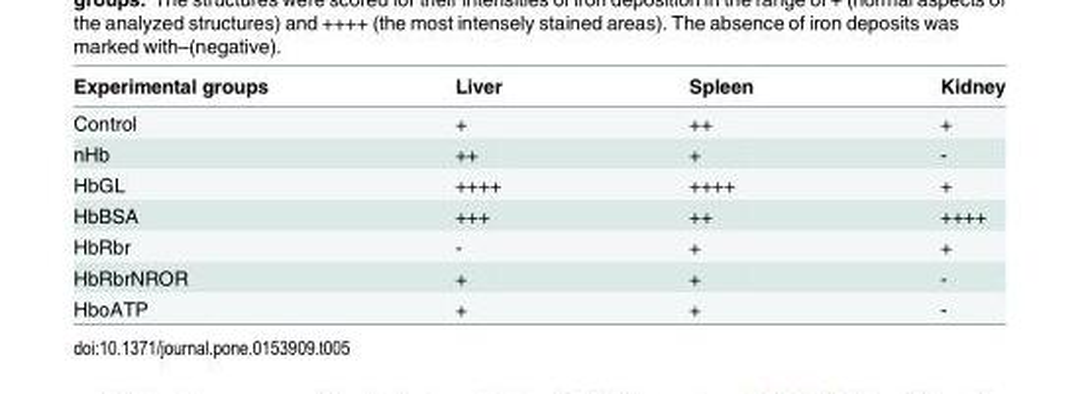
<table><thead><tr><td>Experimental groups</td><td>Liver</td><td>Spleen</td><td>Kidney</td></tr></thead><tbody><tr><td>Control</td><td>+</td><td>++</td><td>+</td></tr><tr><td>nHb</td><td>++</td><td>+</td><td>-</td></tr><tr><td>HbGL</td><td>++++</td><td>++++</td><td>+</td></tr><tr><td>HbBSA</td><td>+++</td><td>++</td><td>++++</td></tr><tr><td>HbRbr</td><td>-</td><td>+</td><td>+</td></tr><tr><td>HbRbrNROR</td><td>+</td><td>+</td><td>-</td></tr><tr><td>HboATP</td><td>+</td><td>+</td><td>-</td></tr></tbody></table>